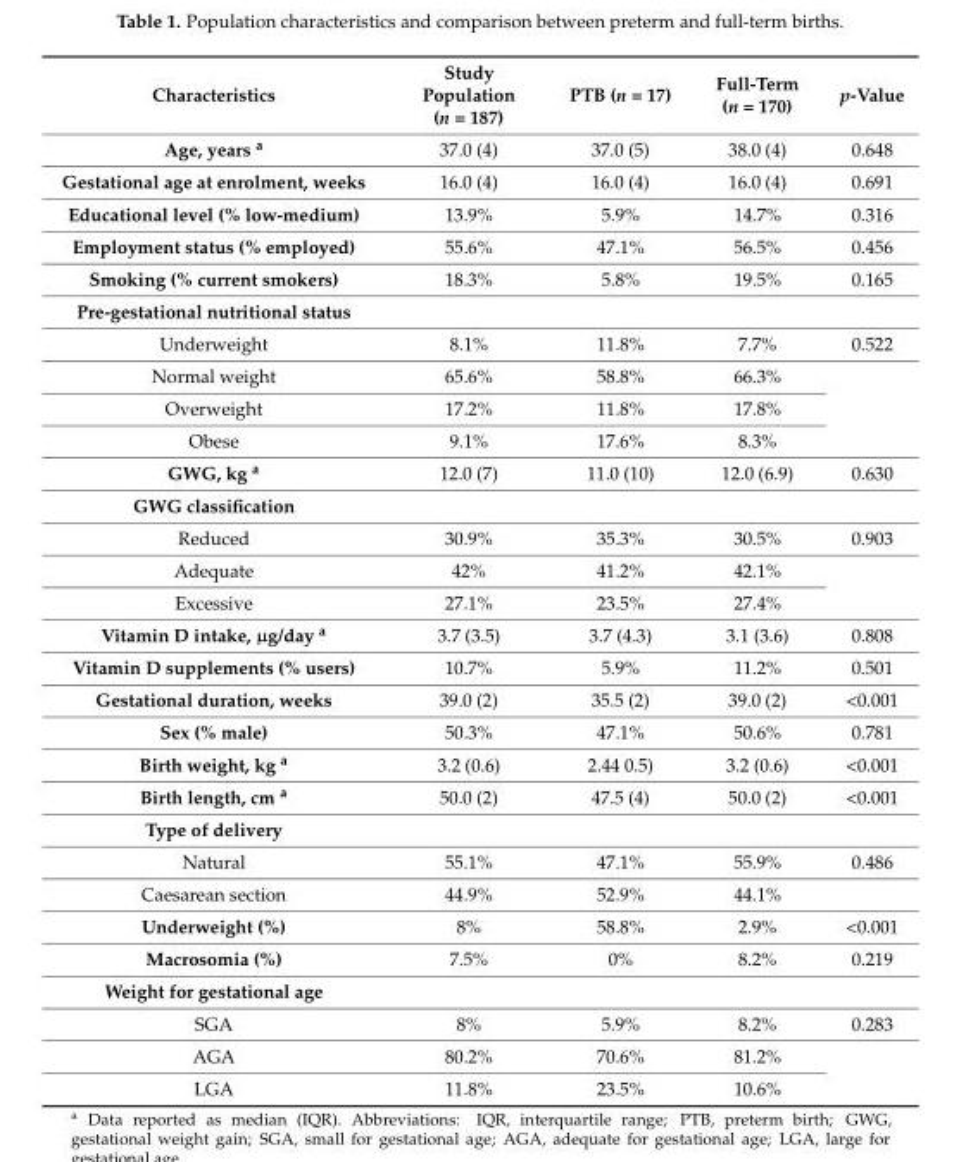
<table><thead><tr><td>Characteristics</td><td>Study Population (n = 187)</td><td>PTB (n = 17)</td><td>Full-Term (n = 170)</td><td>p-Value</td></tr></thead><tbody><tr><td>Age, years <sup>a</sup></td><td>37.0 (4)</td><td>37.0 (5)</td><td>38.0 (4)</td><td>0.648</td></tr><tr><td>Gestational age at enrolment, weeks</td><td>16.0 (4)</td><td>16.0 (4)</td><td>16.0 (4)</td><td>0.691</td></tr><tr><td>Educational level (% low-medium)</td><td>13.9%</td><td>5.9%</td><td>14.7%</td><td>0.316</td></tr><tr><td>Employment status (% employed)</td><td>55.6%</td><td>47.1%</td><td>56.5%</td><td>0.456</td></tr><tr><td>Smoking (% current smokers)</td><td>18.3%</td><td>5.8%</td><td>19.5%</td><td>0.165</td></tr><tr><td colspan="5">Pre-gestational nutritional status</td></tr><tr><td>Underweight</td><td>8.1%</td><td>11.8%</td><td>7.7%</td><td>0.522</td></tr><tr><td>Normal weight</td><td>65.6%</td><td>58.8%</td><td>66.3%</td><td rowspan="3"></td></tr><tr><td>Overweight</td><td>17.2%</td><td>11.8%</td><td>17.8%</td></tr><tr><td>Obese</td><td>9.1%</td><td>17.6%</td><td>8.3%</td></tr><tr><td>GWG, kg <sup>a</sup></td><td>12.0 (7)</td><td>11.0 (10)</td><td>12.0 (6.9)</td><td>0.630</td></tr><tr><td colspan="5">GWG classification</td></tr><tr><td>Reduced</td><td>30.9%</td><td>35.3%</td><td>30.5%</td><td>0.903</td></tr><tr><td>Adequate</td><td>42%</td><td>41.2%</td><td>42.1%</td><td rowspan="2"></td></tr><tr><td>Excessive</td><td>27.1%</td><td>23.5%</td><td>27.4%</td></tr><tr><td>Vitamin D intake, µg/day <sup>a</sup></td><td>3.7 (3.5)</td><td>3.7 (4.3)</td><td>3.1 (3.6)</td><td>0.808</td></tr><tr><td>Vitamin D supplements (% users)</td><td>10.7%</td><td>5.9%</td><td>11.2%</td><td>0.501</td></tr><tr><td>Gestational duration, weeks</td><td>39.0 (2)</td><td>35.5 (2)</td><td>39.0 (2)</td><td>&lt;0.001</td></tr><tr><td>Sex (% male)</td><td>50.3%</td><td>47.1%</td><td>50.6%</td><td>0.781</td></tr><tr><td>Birth weight, kg <sup>a</sup></td><td>3.2 (0.6)</td><td>2.44 0.5)</td><td>3.2 (0.6)</td><td>&lt;0.001</td></tr><tr><td>Birth length, cm <sup>a</sup></td><td>50.0 (2)</td><td>47.5 (4)</td><td>50.0 (2)</td><td>&lt;0.001</td></tr><tr><td colspan="5">Type of delivery</td></tr><tr><td>Natural</td><td>55.1%</td><td>47.1%</td><td>55.9%</td><td>0.486</td></tr><tr><td>Caesarean section</td><td>44.9%</td><td>52.9%</td><td>44.1%</td><td></td></tr><tr><td>Underweight (%)</td><td>8%</td><td>58.8%</td><td>2.9%</td><td>&lt;0.001</td></tr><tr><td>Macrosomia (%)</td><td>7.5%</td><td>0%</td><td>8.2%</td><td>0.219</td></tr><tr><td colspan="5">Weight for gestational age</td></tr><tr><td>SGA</td><td>8%</td><td>5.9%</td><td>8.2%</td><td>0.283</td></tr><tr><td>AGA</td><td>80.2%</td><td>70.6%</td><td>81.2%</td><td rowspan="2"></td></tr><tr><td>LGA</td><td>11.8%</td><td>23.5%</td><td>10.6%</td></tr></tbody></table>